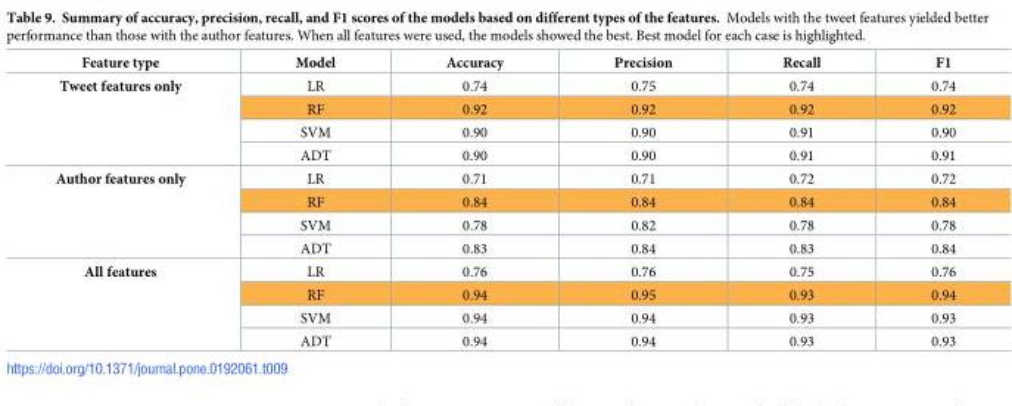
<table><thead><tr><td>Feature type</td><td>Model</td><td>Accuracy</td><td>Precision</td><td>Recall</td><td>F1</td></tr></thead><tbody><tr><td rowspan="4">Tweet features only</td><td>LR</td><td>0.74</td><td>0.75</td><td>0.74</td><td>0.74</td></tr><tr><td>RF</td><td>0.92</td><td>0.92</td><td>0.92</td><td>0.92</td></tr><tr><td>SVM</td><td>0.90</td><td>0.90</td><td>0.91</td><td>0.90</td></tr><tr><td>ADT</td><td>0.90</td><td>0.90</td><td>0.91</td><td>0.91</td></tr><tr><td rowspan="4">Author features only</td><td>LR</td><td>0.71</td><td>0.71</td><td>0.72</td><td>0.72</td></tr><tr><td>RF</td><td>0.84</td><td>0.84</td><td>0.84</td><td>0.84</td></tr><tr><td>SVM</td><td>0.78</td><td>0.82</td><td>0.78</td><td>0.78</td></tr><tr><td>ADT</td><td>0.83</td><td>0.84</td><td>0.83</td><td>0.84</td></tr><tr><td rowspan="4">All features</td><td>LR</td><td>0.76</td><td>0.76</td><td>0.75</td><td>0.76</td></tr><tr><td>RF</td><td>0.94</td><td>0.95</td><td>0.93</td><td>0.94</td></tr><tr><td>SVM</td><td>0.94</td><td>0.94</td><td>0.93</td><td>0.93</td></tr><tr><td>ADT</td><td>0.94</td><td>0.94</td><td>0.93</td><td>0.93</td></tr></tbody></table>